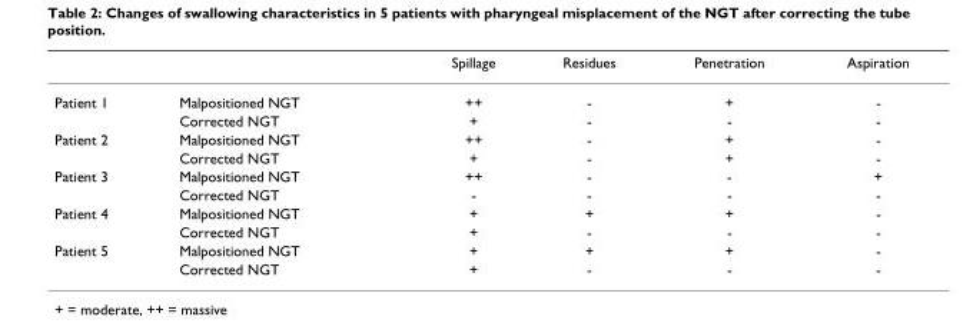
<table><thead><tr><td></td><td></td><td>Spillage</td><td>Residues</td><td>Penetration</td><td>Aspiration</td></tr></thead><tbody><tr><td rowspan="2">Patient 1</td><td>Malpositioned NGT</td><td>++</td><td>-</td><td>+</td><td>-</td></tr><tr><td>Corrected NGT</td><td>+</td><td>-</td><td>-</td><td>-</td></tr><tr><td rowspan="2">Patient 2</td><td>Malpositioned NGT</td><td>++</td><td>-</td><td>+</td><td>-</td></tr><tr><td>Corrected NGT</td><td>+</td><td>-</td><td>+</td><td>-</td></tr><tr><td rowspan="2">Patient 3</td><td>Malpositioned NGT</td><td>++</td><td>-</td><td>-</td><td>+</td></tr><tr><td>Corrected NGT</td><td>-</td><td>-</td><td>-</td><td>-</td></tr><tr><td rowspan="2">Patient 4</td><td>Malpositioned NGT</td><td>+</td><td>+</td><td>+</td><td>-</td></tr><tr><td>Corrected NGT</td><td>+</td><td>-</td><td>-</td><td>-</td></tr><tr><td rowspan="2">Patient 5</td><td>Malpositioned NGT</td><td>+</td><td>+</td><td>+</td><td>-</td></tr><tr><td>Corrected NGT</td><td>+</td><td>-</td><td>-</td><td>-</td></tr></tbody></table>